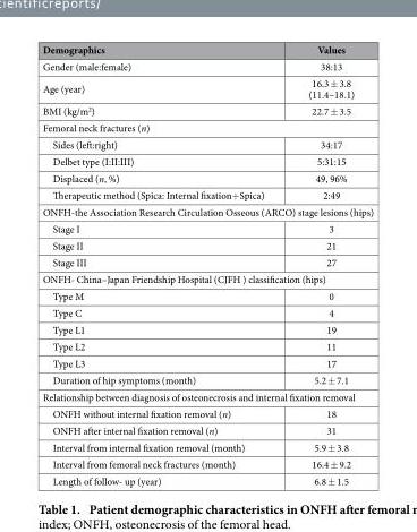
<table><thead><tr><td>Demographics</td><td>Values</td></tr></thead><tbody><tr><td>Gender (male:female)</td><td>38:13</td></tr><tr><td>Age (year)</td><td>16.3 ± 3.8 (11.4–18.1)</td></tr><tr><td>BMI (kg/m<sup>2</sup>)</td><td>22.7 ± 3.5</td></tr><tr><td colspan="2">Femoral neck fractures (n)</td></tr><tr><td>Sides (left:right)</td><td>34:17</td></tr><tr><td>Delbet type (I:II:III)</td><td>5:31:15</td></tr><tr><td>Displaced (n, %)</td><td>49, 96%</td></tr><tr><td>Therapeutic method (Spica: Internal fixation+ Spica)</td><td>2:49</td></tr><tr><td colspan="2">ONFH-the Association Research Circulation Osseous (ARCO) stage lesions (hips)</td></tr><tr><td>Stage I</td><td>3</td></tr><tr><td>Stage II</td><td>21</td></tr><tr><td>Stage III</td><td>27</td></tr><tr><td colspan="2">ONFH- China–Japan Friendship Hospital (CJFH ) classification (hips)</td></tr><tr><td>Type M</td><td>0</td></tr><tr><td>Type C</td><td>4</td></tr><tr><td>Type L1</td><td>19</td></tr><tr><td>Type L2</td><td>11</td></tr><tr><td>Type L3</td><td>17</td></tr><tr><td>Duration of hip symptoms (month)</td><td>5.2 ± 7.1</td></tr><tr><td colspan="2">Relationship between diagnosis of osteonecrosis and internal fixation removal</td></tr><tr><td>ONFH without internal fixation removal (n)</td><td>18</td></tr><tr><td>ONFH after internal fixation removal (n)</td><td>31</td></tr><tr><td>Interval from internal fixation removal (month)</td><td>5.9 ± 3.8</td></tr><tr><td>Interval from femoral neck fractures (month)</td><td>16.4 ± 9.2</td></tr><tr><td>Length of follow- up (year)</td><td>6.8 ± 1.5</td></tr></tbody></table>